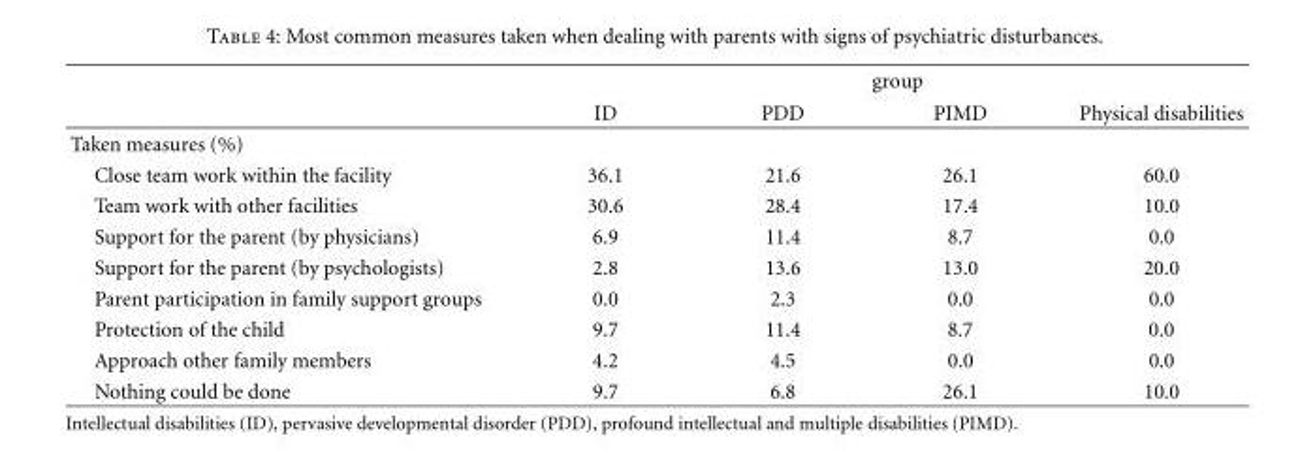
<table><thead><tr><td rowspan="2"></td><td colspan="4">group</td></tr><tr><td>ID</td><td>PDD</td><td>PIMD</td><td>Physical disabilities</td></tr></thead><tbody><tr><td colspan="5">Taken measures (%)</td></tr><tr><td>Close team work within the facility</td><td>36.1</td><td>21.6</td><td>26.1</td><td>60.0</td></tr><tr><td>Team work with other facilities</td><td>30.6</td><td>28.4</td><td>17.4</td><td>10.0</td></tr><tr><td>Support for the parent (by physicians)</td><td>6.9</td><td>11.4</td><td>8.7</td><td>0.0</td></tr><tr><td>Support for the parent (by psychologists)</td><td>2.8</td><td>13.6</td><td>13.0</td><td>20.0</td></tr><tr><td>Parent participation in family support groups</td><td>0.0</td><td>2.3</td><td>0.0</td><td>0.0</td></tr><tr><td>Protection of the child</td><td>9.7</td><td>11.4</td><td>8.7</td><td>0.0</td></tr><tr><td>Approach other family members</td><td>4.2</td><td>4.5</td><td>0.0</td><td>0.0</td></tr><tr><td>Nothing could be done</td><td>9.7</td><td>6.8</td><td>26.1</td><td>10.0</td></tr></tbody></table>